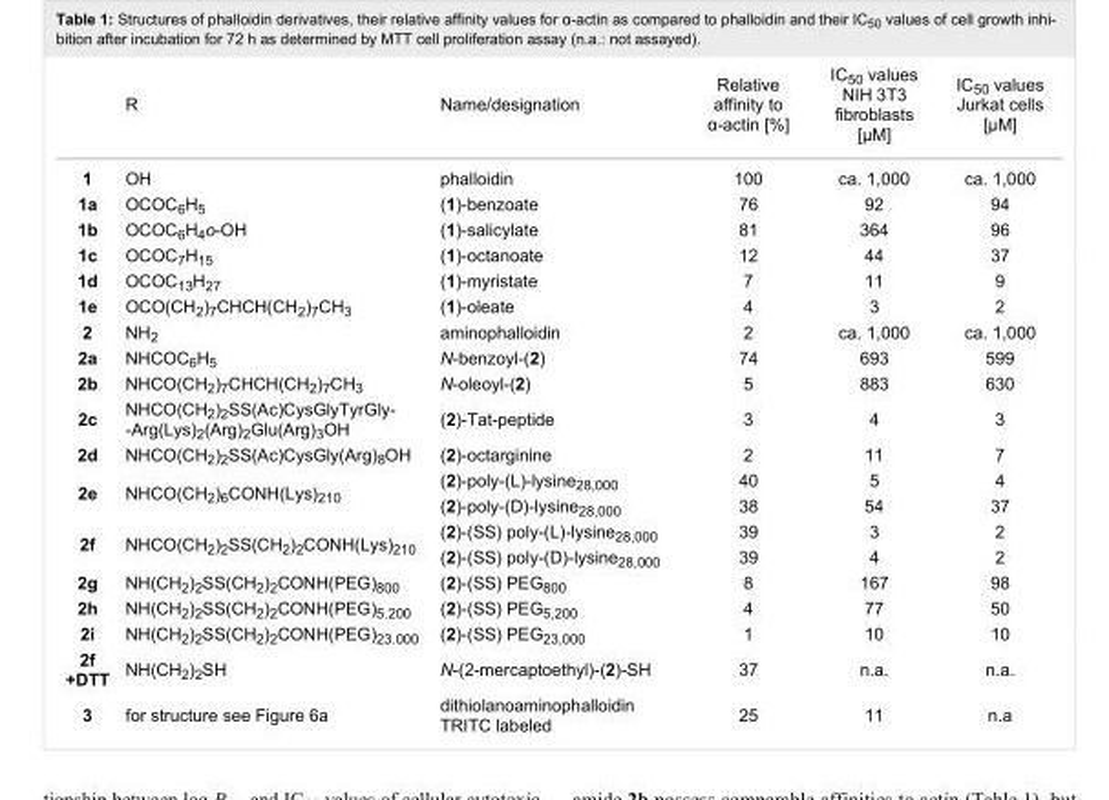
<table><thead><tr><td></td><td>R</td><td>Name/designation</td><td>Relative affinity to α-actin [%]</td><td>IC<sub>50</sub> values NIH 3T3 fibroblasts [µM]</td><td>IC<sub>50</sub> values Jurkat cells [µM]</td></tr></thead><tbody><tr><td>1</td><td>OH</td><td>phalloidin</td><td>100</td><td>ca. 1,000</td><td>ca. 1,000</td></tr><tr><td>1a</td><td>OCOC<sub>6</sub>H<sub>5</sub></td><td>(1)-benzoate</td><td>76</td><td>92</td><td>94</td></tr><tr><td>1b</td><td>OCOC<sub>6</sub>H<sub>4</sub>o-OH</td><td>(1)-salicylate</td><td>81</td><td>364</td><td>96</td></tr><tr><td>1c</td><td>OCOC<sub>7</sub>H<sub>15</sub></td><td>(1)-octanoate</td><td>12</td><td>44</td><td>37</td></tr><tr><td>1d</td><td>OCOC<sub>13</sub>H<sub>27</sub></td><td>(1)-myristate</td><td>7</td><td>11</td><td>9</td></tr><tr><td>1e</td><td>OCO(CH<sub>2</sub>)<sub>7</sub>CHCH(CH<sub>2</sub>)<sub>7</sub>CH<sub>3</sub></td><td>(1)-oleate</td><td>4</td><td>3</td><td>2</td></tr><tr><td>2</td><td>NH<sub>2</sub></td><td>aminophalloidin</td><td>2</td><td>ca. 1,000</td><td>ca. 1,000</td></tr><tr><td>2a</td><td>NHCOC<sub>6</sub>H<sub>5</sub></td><td>N-benzoyl-(2)</td><td>74</td><td>693</td><td>599</td></tr><tr><td>2b</td><td>NHCO(CH<sub>2</sub>)<sub>7</sub>CHCH(CH<sub>2</sub>)<sub>7</sub>CH<sub>3</sub></td><td>N-oleoyl-(2)</td><td>5</td><td>883</td><td>630</td></tr><tr><td>2c</td><td>NHCO(CH<sub>2</sub>)<sub>2</sub>SS(Ac)CysGlyTyrGly- -Arg(Lys)<sub>2</sub>(Arg)<sub>2</sub>Glu(Arg)<sub>3</sub>OH</td><td>(2)-Tat-peptide</td><td>3</td><td>4</td><td>3</td></tr><tr><td>2d</td><td>NHCO(CH<sub>2</sub>)<sub>2</sub>SS(Ac)CysGly(Arg)<sub>8</sub>OH</td><td>(2)-octarginine</td><td>2</td><td>11</td><td>7</td></tr><tr><td rowspan="2">2e</td><td rowspan="2">NHCO(CH<sub>2</sub>)<sub>6</sub>CONH(Lys)<sub>210</sub></td><td>(2)-poly-(L)-lysine<sub>28,000</sub></td><td>40</td><td>5</td><td>4</td></tr><tr><td>(2)-poly-(D)-lysine<sub>28,000</sub></td><td>38</td><td>54</td><td>37</td></tr><tr><td rowspan="2">2f</td><td rowspan="2">NHCO(CH<sub>2</sub>)<sub>2</sub>SS(CH<sub>2</sub>)<sub>2</sub>CONH(Lys)<sub>210</sub></td><td>(2)-(SS) poly-(L)-lysine<sub>28,000</sub></td><td>39</td><td>3</td><td>2</td></tr><tr><td>(2)-(SS) poly-(D)-lysine<sub>28,000</sub></td><td>39</td><td>4</td><td>2</td></tr><tr><td>2g</td><td>NH(CH<sub>2</sub>)<sub>2</sub>SS(CH<sub>2</sub>)<sub>2</sub>CONH(PEG)<sub>800</sub></td><td>(2)-(SS) PEG<sub>800</sub></td><td>8</td><td>167</td><td>98</td></tr><tr><td>2h</td><td>NH(CH<sub>2</sub>)<sub>2</sub>SS(CH<sub>2</sub>)<sub>2</sub>CONH(PEG)<sub>5.200</sub></td><td>(2)-(SS) PEG<sub>5,200</sub></td><td>4</td><td>77</td><td>50</td></tr><tr><td>2i</td><td>NH(CH<sub>2</sub>)<sub>2</sub>SS(CH<sub>2</sub>)<sub>2</sub>CONH(PEG)<sub>23.000</sub></td><td>(2)-(SS) PEG<sub>23,000</sub></td><td>1</td><td>10</td><td>10</td></tr><tr><td>2f +DTT</td><td>NH(CH<sub>2</sub>)<sub>2</sub>SH</td><td>N-(2-mercaptoethyl)-(2)-SH</td><td>37</td><td>n.a.</td><td>n.a.</td></tr><tr><td>3</td><td>for structure see Figure 6a</td><td>dithiolanoaminophalloidin TRITC labeled</td><td>25</td><td>11</td><td>n.a</td></tr></tbody></table>